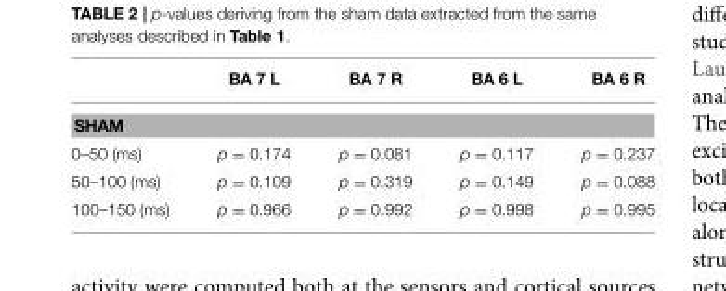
<table><thead><tr><td></td><td>BA 7 L</td><td>BA 7 R</td><td>BA 6 L</td><td>BA 6 R</td></tr></thead><tbody><tr><td colspan="5">SHAM</td></tr><tr><td>0–50 (ms)</td><td>p = 0.174</td><td>p = 0.081</td><td>p = 0.117</td><td>p = 0.237</td></tr><tr><td>50–100 (ms)</td><td>p = 0.109</td><td>p = 0.319</td><td>p = 0.149</td><td>p = 0.088</td></tr><tr><td>100–150 (ms)</td><td>p = 0.966</td><td>p = 0.992</td><td>p = 0.998</td><td>p = 0.995</td></tr></tbody></table>